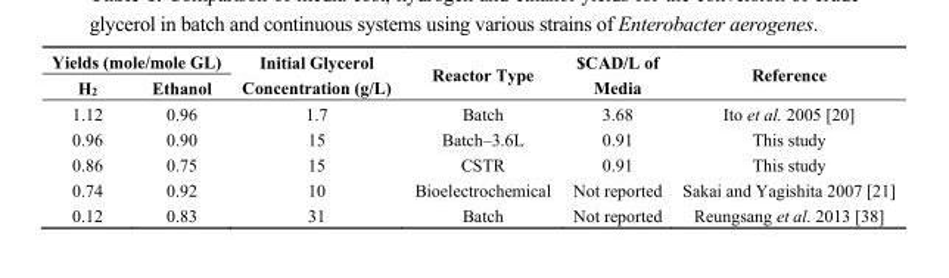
<table><thead><tr><td colspan="2">Yields (mole/mole GL)</td><td rowspan="2">Initial Glycerol Concentration (g/L)</td><td rowspan="2">Reactor Type</td><td rowspan="2">$CAD/L of Media</td><td rowspan="2">Reference</td></tr><tr><td>H<sub>2</sub></td><td>Ethanol</td></tr></thead><tbody><tr><td>1.12</td><td>0.96</td><td>1.7</td><td>Batch</td><td>3.68</td><td>Ito et al. 2005 [20]</td></tr><tr><td>0.96</td><td>0.90</td><td>15</td><td>Batch–3.6L</td><td>0.91</td><td>This study</td></tr><tr><td>0.86</td><td>0.75</td><td>15</td><td>CSTR</td><td>0.91</td><td>This study</td></tr><tr><td>0.74</td><td>0.92</td><td>10</td><td>Bioelectrochemical</td><td>Not reported</td><td>Sakai and Yagishita 2007 [21]</td></tr><tr><td>0.12</td><td>0.83</td><td>31</td><td>Batch</td><td>Not reported</td><td>Reungsang et al. 2013 [38]</td></tr></tbody></table>